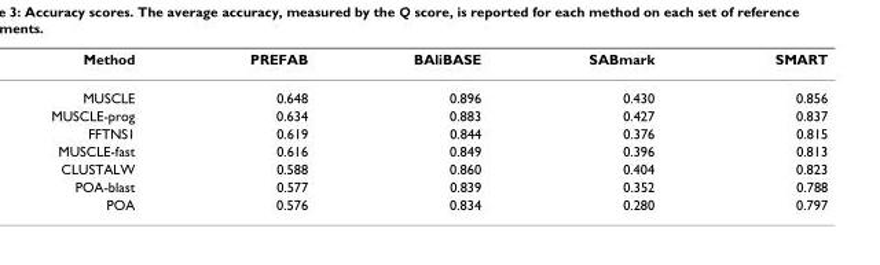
<table><thead><tr><td>Method</td><td>PREFAB</td><td>BAliBASE</td><td>SABmark</td><td>SMART</td></tr></thead><tbody><tr><td>MUSCLE</td><td>0.648</td><td>0.896</td><td>0.430</td><td>0.856</td></tr><tr><td>MUSCLE-prog</td><td>0.634</td><td>0.883</td><td>0.427</td><td>0.837</td></tr><tr><td>FFTNS1</td><td>0.619</td><td>0.844</td><td>0.376</td><td>0.815</td></tr><tr><td>MUSCLE-fast</td><td>0.616</td><td>0.849</td><td>0.396</td><td>0.813</td></tr><tr><td>CLUSTALW</td><td>0.588</td><td>0.860</td><td>0.404</td><td>0.823</td></tr><tr><td>POA-blast</td><td>0.577</td><td>0.839</td><td>0.352</td><td>0.788</td></tr><tr><td>POA</td><td>0.576</td><td>0.834</td><td>0.280</td><td>0.797</td></tr></tbody></table>